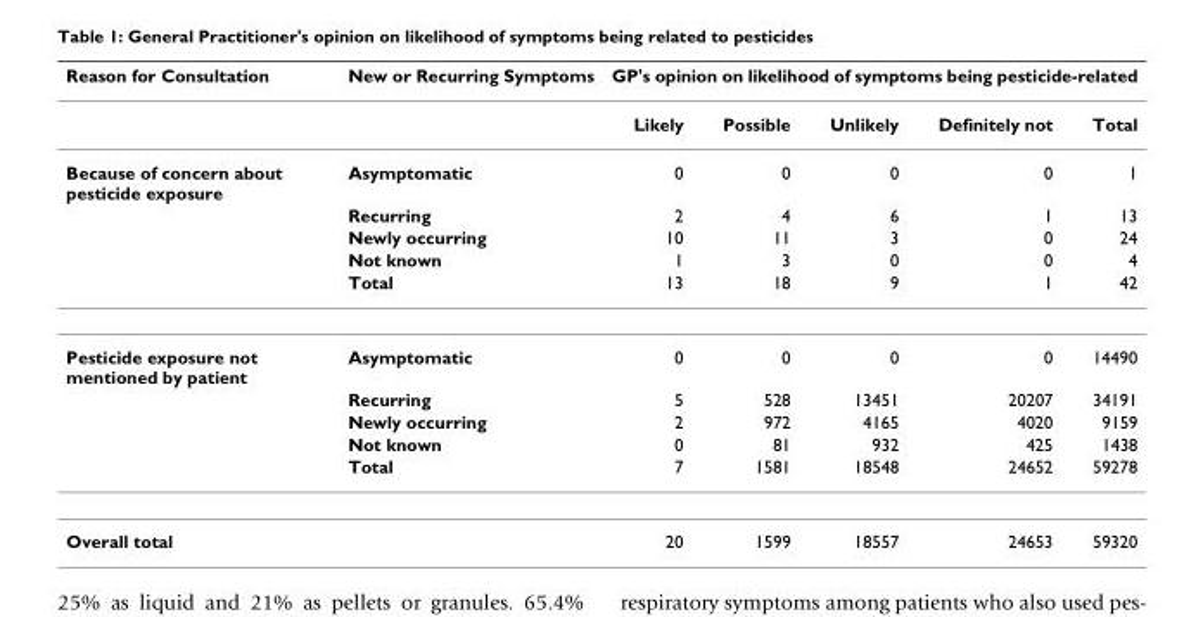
<table><thead><tr><td rowspan="2">Reason for Consultation</td><td rowspan="2">New or Recurring Symptoms</td><td colspan="5">GP&#x27;s opinion on likelihood of symptoms being pesticide-related</td></tr><tr><td>Likely</td><td>Possible</td><td>Unlikely</td><td>Definitely not</td><td>Total</td></tr></thead><tbody><tr><td rowspan="5">Because of concern about pesticide exposure</td><td>Asymptomatic</td><td>0</td><td>0</td><td>0</td><td>0</td><td>1</td></tr><tr><td>Recurring</td><td>2</td><td>4</td><td>6</td><td>1</td><td>13</td></tr><tr><td>Newly occurring</td><td>10</td><td>11</td><td>3</td><td>0</td><td>24</td></tr><tr><td>Not known</td><td>1</td><td>3</td><td>0</td><td>0</td><td>4</td></tr><tr><td>Total</td><td>13</td><td>18</td><td>9</td><td>1</td><td>42</td></tr><tr><td rowspan="5">Pesticide exposure not mentioned by patient</td><td>Asymptomatic</td><td>0</td><td>0</td><td>0</td><td>0</td><td>14490</td></tr><tr><td>Recurring</td><td>5</td><td>528</td><td>13451</td><td>20207</td><td>34191</td></tr><tr><td>Newly occurring</td><td>2</td><td>972</td><td>4165</td><td>4020</td><td>9159</td></tr><tr><td>Not known</td><td>0</td><td>81</td><td>932</td><td>425</td><td>1438</td></tr><tr><td>Total</td><td>7</td><td>1581</td><td>18548</td><td>24652</td><td>59278</td></tr><tr><td>Overall total</td><td></td><td>20</td><td>1599</td><td>18557</td><td>24653</td><td>59320</td></tr></tbody></table>